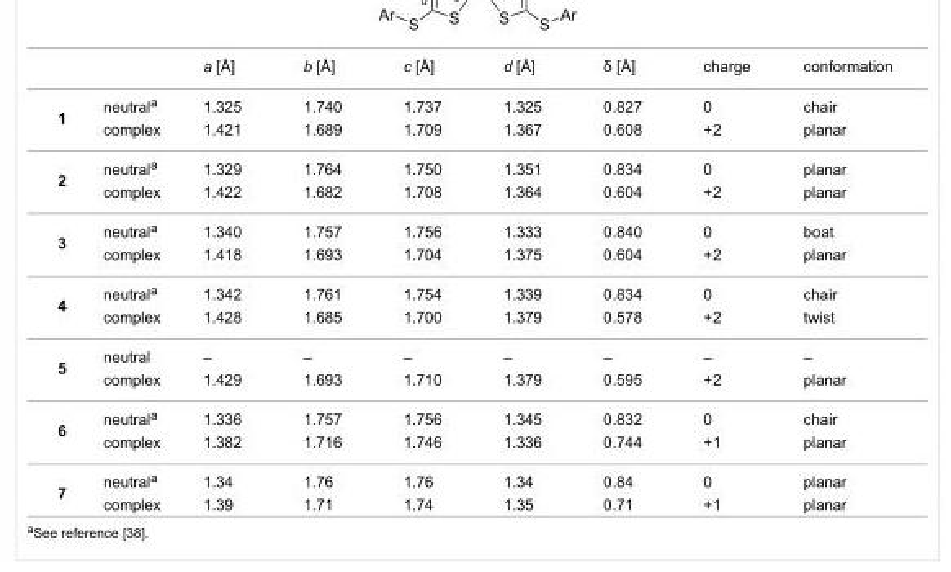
<table><thead><tr><td></td><td></td><td>a [Å]</td><td>b [Å]</td><td>c [Å]</td><td>d [Å]</td><td>δ [Å]</td><td>charge</td><td>conformation</td></tr></thead><tbody><tr><td rowspan="2">1</td><td>neutral<sup>a</sup></td><td>1.325</td><td>1.740</td><td>1.737</td><td>1.325</td><td>0.827</td><td>0</td><td>chair</td></tr><tr><td>complex</td><td>1.421</td><td>1.689</td><td>1.709</td><td>1.367</td><td>0.608</td><td>+2</td><td>planar</td></tr><tr><td rowspan="2">2</td><td>neutral<sup>a</sup></td><td>1.329</td><td>1.764</td><td>1.750</td><td>1.351</td><td>0.834</td><td>0</td><td>planar</td></tr><tr><td>complex</td><td>1.422</td><td>1.682</td><td>1.708</td><td>1.364</td><td>0.604</td><td>+2</td><td>planar</td></tr><tr><td rowspan="2">3</td><td>neutral<sup>a</sup></td><td>1.340</td><td>1.757</td><td>1.756</td><td>1.333</td><td>0.840</td><td>0</td><td>boat</td></tr><tr><td>complex</td><td>1.418</td><td>1.693</td><td>1.704</td><td>1.375</td><td>0.604</td><td>+2</td><td>planar</td></tr><tr><td rowspan="2">4</td><td>neutral<sup>a</sup></td><td>1.342</td><td>1.761</td><td>1.754</td><td>1.339</td><td>0.834</td><td>0</td><td>chair</td></tr><tr><td>complex</td><td>1.428</td><td>1.685</td><td>1.700</td><td>1.379</td><td>0.578</td><td>+2</td><td>twist</td></tr><tr><td rowspan="2">5</td><td>neutral</td><td>–</td><td>–</td><td>–</td><td>–</td><td>–</td><td>–</td><td>–</td></tr><tr><td>complex</td><td>1.429</td><td>1.693</td><td>1.710</td><td>1.379</td><td>0.595</td><td>+2</td><td>planar</td></tr><tr><td rowspan="2">6</td><td>neutral<sup>a</sup></td><td>1.336</td><td>1.757</td><td>1.756</td><td>1.345</td><td>0.832</td><td>0</td><td>chair</td></tr><tr><td>complex</td><td>1.382</td><td>1.716</td><td>1.746</td><td>1.336</td><td>0.744</td><td>+1</td><td>planar</td></tr><tr><td rowspan="2">7</td><td>neutral<sup>a</sup></td><td>1.34</td><td>1.76</td><td>1.76</td><td>1.34</td><td>0.84</td><td>0</td><td>planar</td></tr><tr><td>complex</td><td>1.39</td><td>1.71</td><td>1.74</td><td>1.35</td><td>0.71</td><td>+1</td><td>planar</td></tr></tbody></table>